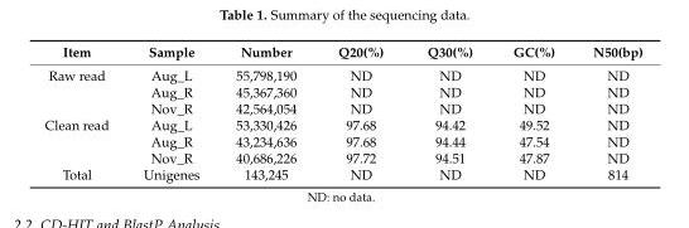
<table><thead><tr><td>Item</td><td>Sample</td><td>Number</td><td>Q20(%)</td><td>Q30(%)</td><td>GC(%)</td><td>N50(bp)</td></tr></thead><tbody><tr><td rowspan="3">Raw read</td><td>Aug_L</td><td>55,798,190</td><td>ND</td><td>ND</td><td>ND</td><td>ND</td></tr><tr><td>Aug_R</td><td>45,367,360</td><td>ND</td><td>ND</td><td>ND</td><td>ND</td></tr><tr><td>Nov_R</td><td>42,564,054</td><td>ND</td><td>ND</td><td>ND</td><td>ND</td></tr><tr><td rowspan="3">Clean read</td><td>Aug_L</td><td>53,330,426</td><td>97.68</td><td>94.42</td><td>49.52</td><td>ND</td></tr><tr><td>Aug_R</td><td>43,234,636</td><td>97.68</td><td>94.44</td><td>47.54</td><td>ND</td></tr><tr><td>Nov_R</td><td>40,686,226</td><td>97.72</td><td>94.51</td><td>47.87</td><td>ND</td></tr><tr><td>Total</td><td>Unigenes</td><td>143,245</td><td>ND</td><td>ND</td><td>ND</td><td>814</td></tr></tbody></table>